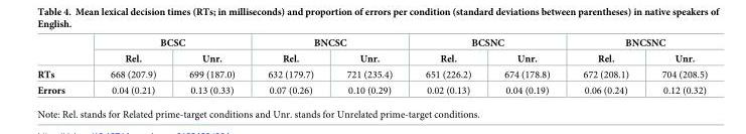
<table><thead><tr><td rowspan="2"></td><td colspan="2">BCSC</td><td colspan="2">BNCSC</td><td colspan="2">BCSNC</td><td colspan="2">BNCSNC</td></tr><tr><td>Rel.</td><td>Unr.</td><td>Rel.</td><td>Unr.</td><td>Rel.</td><td>Unr.</td><td>Rel.</td><td>Unr.</td></tr></thead><tbody><tr><td>RTs</td><td>668 (207.9)</td><td>699 (187.0)</td><td>632 (179.7)</td><td>721 (235.4)</td><td>651 (226.2)</td><td>674 (178.8)</td><td>672 (208.1)</td><td>704 (208.5)</td></tr><tr><td>Errors</td><td>0.04 (0.21)</td><td>0.13 (0.33)</td><td>0.07 (0.26)</td><td>0.10 (0.29)</td><td>0.02 (0.13)</td><td>0.04 (0.19)</td><td>0.06 (0.24)</td><td>0.12 (0.32)</td></tr></tbody></table>